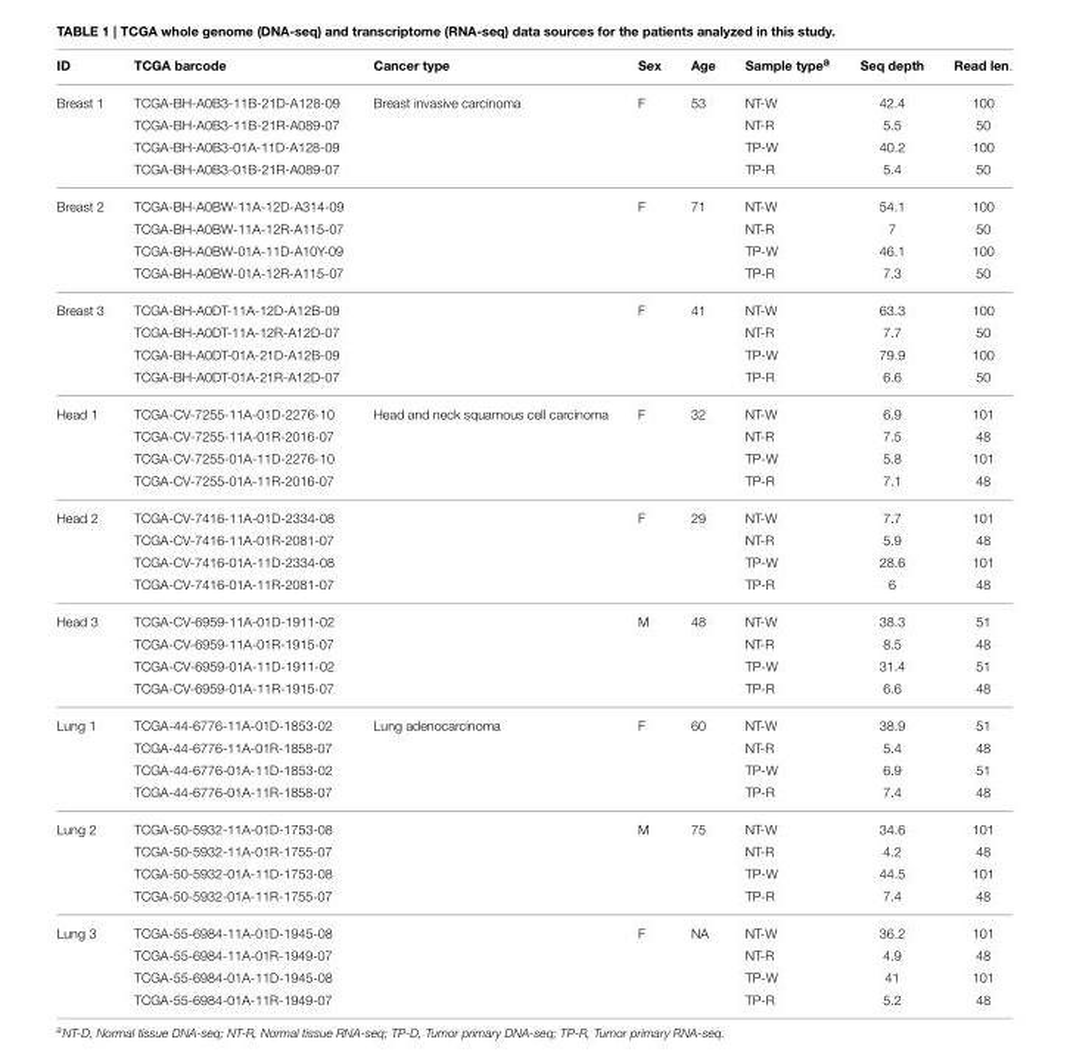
<table><thead><tr><td>ID</td><td>TCGA barcode</td><td>Cancer type</td><td>Sex</td><td>Age</td><td>Sample type<sup>a</sup></td><td>Seq depth</td><td>Read len.</td></tr></thead><tbody><tr><td rowspan="4">Breast 1</td><td>TCGA-BH-A0B3-11B-21D-A128-09</td><td>Breast invasive carcinoma</td><td>F</td><td>53</td><td>NT-W</td><td>42.4</td><td>100</td></tr><tr><td>TCGA-BH-A0B3-11B-21R-A089-07</td><td></td><td></td><td></td><td>NT-R</td><td>5.5</td><td>50</td></tr><tr><td>TCGA-BH-A0B3-01A-11D-A128-09</td><td></td><td></td><td></td><td>TP-W</td><td>40.2</td><td>100</td></tr><tr><td>TCGA-BH-A0B3-01B-21R-A089-07</td><td></td><td></td><td></td><td>TP-R</td><td>5.4</td><td>50</td></tr><tr><td rowspan="4">Breast 2</td><td>TCGA-BH-A0BW-11A-12D-A314-09</td><td></td><td>F</td><td>71</td><td>NT-W</td><td>54.1</td><td>100</td></tr><tr><td>TCGA-BH-A0BW-11A-12R-A115-07</td><td></td><td></td><td></td><td>NT-R</td><td>7</td><td>50</td></tr><tr><td>TCGA-BH-A0BW-01A-11D-A10Y-09</td><td></td><td></td><td></td><td>TP-W</td><td>46.1</td><td>100</td></tr><tr><td>TCGA-BH-A0BW-01A-12R-A115-07</td><td></td><td></td><td></td><td>TP-R</td><td>7.3</td><td>50</td></tr><tr><td rowspan="4">Breast 3</td><td>TCGA-BH-A0DT-11A-12D-A12B-09</td><td></td><td>F</td><td>41</td><td>NT-W</td><td>63.3</td><td>100</td></tr><tr><td>TCGA-BH-A0DT-11A-12R-A12D-07</td><td></td><td></td><td></td><td>NT-R</td><td>7.7</td><td>50</td></tr><tr><td>TCGA-BH-A0DT-01A-21D-A12B-09</td><td></td><td></td><td></td><td>TP-W</td><td>79.9</td><td>100</td></tr><tr><td>TCGA-BH-A0DT-01A-21R-A12D-07</td><td></td><td></td><td></td><td>TP-R</td><td>6.6</td><td>50</td></tr><tr><td rowspan="4">Head 1</td><td>TCGA-CV-7255-11A-01D-2276-10</td><td>Head and neck squamous cell carcinoma</td><td>F</td><td>32</td><td>NT-W</td><td>6.9</td><td>101</td></tr><tr><td>TCGA-CV-7255-11A-01R-2016-07</td><td></td><td></td><td></td><td>NT-R</td><td>7.5</td><td>48</td></tr><tr><td>TCGA-CV-7255-01A-11D-2276-10</td><td></td><td></td><td></td><td>TP-W</td><td>5.8</td><td>101</td></tr><tr><td>TCGA-CV-7255-01A-11R-2016-07</td><td></td><td></td><td></td><td>TP-R</td><td>7.1</td><td>48</td></tr><tr><td rowspan="4">Head 2</td><td>TCGA-CV-7416-11A-01D-2334-08</td><td></td><td>F</td><td>29</td><td>NT-W</td><td>7.7</td><td>101</td></tr><tr><td>TCGA-CV-7416-11A-01R-2081-07</td><td></td><td></td><td></td><td>NT-R</td><td>5.9</td><td>48</td></tr><tr><td>TCGA-CV-7416-01A-11D-2334-08</td><td></td><td></td><td></td><td>TP-W</td><td>28.6</td><td>101</td></tr><tr><td>TCGA-CV-7416-01A-11R-2081-07</td><td></td><td></td><td></td><td>TP-R</td><td>6</td><td>48</td></tr><tr><td rowspan="4">Head 3</td><td>TCGA-CV-6959-11A-01D-1911-02</td><td></td><td>M</td><td>48</td><td>NT-W</td><td>38.3</td><td>51</td></tr><tr><td>TCGA-CV-6959-11A-01R-1915-07</td><td></td><td></td><td></td><td>NT-R</td><td>8.5</td><td>48</td></tr><tr><td>TCGA-CV-6959-01A-11D-1911-02</td><td></td><td></td><td></td><td>TP-W</td><td>31.4</td><td>51</td></tr><tr><td>TCGA-CV-6959-01A-11R-1915-07</td><td></td><td></td><td></td><td>TP-R</td><td>6.6</td><td>48</td></tr><tr><td rowspan="4">Lung 1</td><td>TCGA-44-6776-11A-01D-1853-02</td><td>Lung adenocarcinoma</td><td>F</td><td>60</td><td>NT-W</td><td>38.9</td><td>51</td></tr><tr><td>TCGA-44-6776-11A-01R-1858-07</td><td></td><td></td><td></td><td>NT-R</td><td>5.4</td><td>48</td></tr><tr><td>TCGA-44-6776-01A-11D-1853-02</td><td></td><td></td><td></td><td>TP-W</td><td>6.9</td><td>51</td></tr><tr><td>TCGA-44-6776-01A-11R-1858-07</td><td></td><td></td><td></td><td>TP-R</td><td>7.4</td><td>48</td></tr><tr><td rowspan="4">Lung 2</td><td>TCGA-50-5932-11A-01D-1753-08</td><td></td><td>M</td><td>75</td><td>NT-W</td><td>34.6</td><td>101</td></tr><tr><td>TCGA-50-5932-11A-01R-1755-07</td><td></td><td></td><td></td><td>NT-R</td><td>4.2</td><td>48</td></tr><tr><td>TCGA-50-5932-01A-11D-1753-08</td><td></td><td></td><td></td><td>TP-W</td><td>44.5</td><td>101</td></tr><tr><td>TCGA-50-5932-01A-11R-1755-07</td><td></td><td></td><td></td><td>TP-R</td><td>7.4</td><td>48</td></tr><tr><td rowspan="4">Lung 3</td><td>TCGA-55-6984-11A-01D-1945-08</td><td></td><td>F</td><td>NA</td><td>NT-W</td><td>36.2</td><td>101</td></tr><tr><td>TCGA-55-6984-11A-01R-1949-07</td><td></td><td></td><td></td><td>NT-R</td><td>4.9</td><td>48</td></tr><tr><td>TCGA-55-6984-01A-11D-1945-08</td><td></td><td></td><td></td><td>TP-W</td><td>41</td><td>101</td></tr><tr><td>TCGA-55-6984-01A-11R-1949-07</td><td></td><td></td><td></td><td>TP-R</td><td>5.2</td><td>48</td></tr></tbody></table>